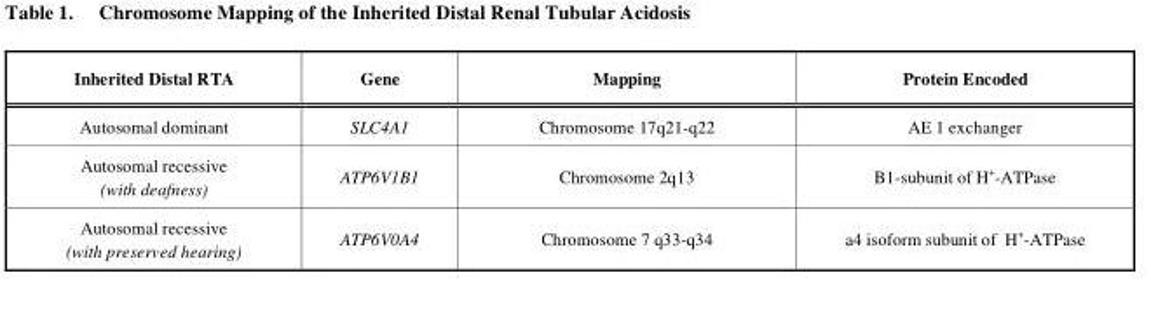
<table><thead><tr><td>Inherited Distal RTA</td><td>Gene</td><td>Mapping</td><td>Protein Encoded</td></tr></thead><tbody><tr><td>Autosomal dominant</td><td>SLC4A1</td><td>Chromosome 17q21-q22</td><td>AE 1 exchanger</td></tr><tr><td>Autosomal recessive (with deafness)</td><td>ATP6V1B1</td><td>Chromosome 2q13</td><td>B1-subunit of H<sup>+</sup>-ATPase</td></tr><tr><td>Autosomal recessive (with preserved hearing)</td><td>ATP6V0A4</td><td>Chromosome 7 q33-q34</td><td>a4 isoform subunit of H<sup>+</sup>-ATPase</td></tr></tbody></table>